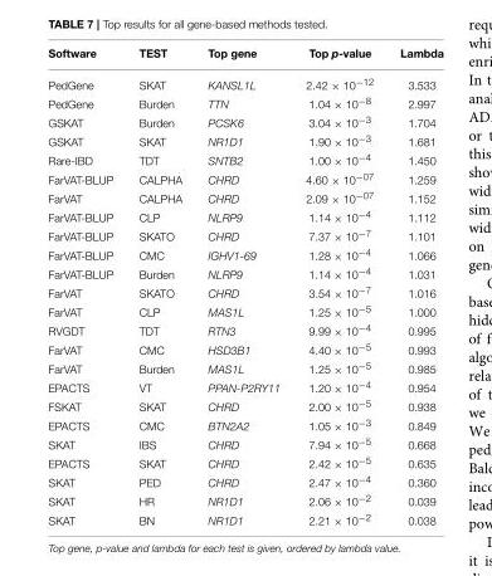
<table><thead><tr><td>Software</td><td>TEST</td><td>Top gene</td><td>Top p-value</td><td>Lambda</td></tr></thead><tbody><tr><td>PedGene</td><td>SKAT</td><td>KANSL1L</td><td>2.42 × 10<sup>−12</sup></td><td>3.533</td></tr><tr><td>PedGene</td><td>Burden</td><td>TTN</td><td>1.04 × 10<sup>−8</sup></td><td>2.997</td></tr><tr><td>GSKAT</td><td>Burden</td><td>PCSK6</td><td>3.04 × 10<sup>−3</sup></td><td>1.704</td></tr><tr><td>GSKAT</td><td>SKAT</td><td>NR1D1</td><td>1.90 × 10<sup>−3</sup></td><td>1.681</td></tr><tr><td>Rare-IBD</td><td>TDT</td><td>SNTB2</td><td>1.00 × 10<sup>−4</sup></td><td>1.450</td></tr><tr><td>FarVAT-BLUP</td><td>CALPHA</td><td>CHRD</td><td>4.60 × 10<sup>−07</sup></td><td>1.259</td></tr><tr><td>FarVAT</td><td>CALPHA</td><td>CHRD</td><td>2.09 × 10<sup>−07</sup></td><td>1.152</td></tr><tr><td>FarVAT-BLUP</td><td>CLP</td><td>NLRP9</td><td>1.14 × 10<sup>−4</sup></td><td>1.112</td></tr><tr><td>FarVAT-BLUP</td><td>SKATO</td><td>CHRD</td><td>7.37 × 10<sup>−7</sup></td><td>1.101</td></tr><tr><td>FarVAT-BLUP</td><td>CMC</td><td>IGHV1-69</td><td>1.28 × 10<sup>−4</sup></td><td>1.066</td></tr><tr><td>FarVAT-BLUP</td><td>Burden</td><td>NLRP9</td><td>1.14 × 10<sup>−4</sup></td><td>1.031</td></tr><tr><td>FarVAT</td><td>SKATO</td><td>CHRD</td><td>3.54 × 10<sup>−7</sup></td><td>1.016</td></tr><tr><td>FarVAT</td><td>CLP</td><td>MAS1L</td><td>1.25 × 10<sup>−5</sup></td><td>1.000</td></tr><tr><td>RVGDT</td><td>TDT</td><td>RTN3</td><td>9.99 × 10<sup>−4</sup></td><td>0.995</td></tr><tr><td>FarVAT</td><td>CMC</td><td>HSD3B1</td><td>4.40 × 10<sup>−5</sup></td><td>0.993</td></tr><tr><td>FarVAT</td><td>Burden</td><td>MAS1L</td><td>1.25 × 10<sup>−5</sup></td><td>0.985</td></tr><tr><td>EPACTS</td><td>VT</td><td>PPAN-P2RY11</td><td>1.20 × 10<sup>−4</sup></td><td>0.954</td></tr><tr><td>FSKAT</td><td>SKAT</td><td>CHRD</td><td>2.00 × 10<sup>−5</sup></td><td>0.938</td></tr><tr><td>EPACTS</td><td>CMC</td><td>BTN2A2</td><td>1.05 × 10<sup>−3</sup></td><td>0.849</td></tr><tr><td>SKAT</td><td>IBS</td><td>CHRD</td><td>7.94 × 10<sup>−5</sup></td><td>0.668</td></tr><tr><td>EPACTS</td><td>SKAT</td><td>CHRD</td><td>2.42 × 10<sup>−5</sup></td><td>0.635</td></tr><tr><td>SKAT</td><td>PED</td><td>CHRD</td><td>2.47 × 10<sup>−4</sup></td><td>0.360</td></tr><tr><td>SKAT</td><td>HR</td><td>NR1D1</td><td>2.06 × 10<sup>−2</sup></td><td>0.039</td></tr><tr><td>SKAT</td><td>BN</td><td>NR1D1</td><td>2.21 × 10<sup>−2</sup></td><td>0.038</td></tr></tbody></table>